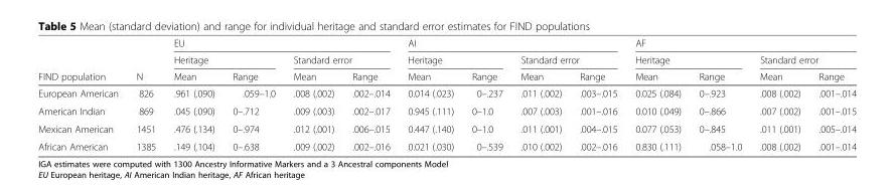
<table><thead><tr><td rowspan="3">FIND population</td><td rowspan="3">N</td><td colspan="4">EU</td><td colspan="4">AI</td><td colspan="4">AF</td></tr><tr><td colspan="2">Heritage</td><td colspan="2">Standard error</td><td colspan="2">Heritage</td><td colspan="2">Standard error</td><td colspan="2">Heritage</td><td colspan="2">Standard error</td></tr><tr><td>Mean</td><td>Range</td><td>Mean</td><td>Range</td><td>Mean</td><td>Range</td><td>Mean</td><td>Range</td><td>Mean</td><td>Range</td><td>Mean</td><td>Range</td></tr></thead><tbody><tr><td>European American</td><td>826</td><td>.961 (.090)</td><td>.059–1.0</td><td>.008 (.002)</td><td>.002–.014</td><td>0.014 (.023)</td><td>0–.237</td><td>.011 (.002)</td><td>.003–.015</td><td>0.025 (.084)</td><td>0–.923</td><td>.008 (.002)</td><td>.001–.014</td></tr><tr><td>American Indian</td><td>869</td><td>.045 (.090)</td><td>0–.712</td><td>.009 (.003)</td><td>.002–.017</td><td>0.945 (.111)</td><td>0–1.0</td><td>.007 (.003)</td><td>.001–.016</td><td>0.010 (.049)</td><td>0–.866</td><td>.007 (.002)</td><td>.001–.015</td></tr><tr><td>Mexican American</td><td>1451</td><td>.476 (.134)</td><td>0–.974</td><td>.012 (.001)</td><td>.006–.015</td><td>0.447 (.140)</td><td>0–1.0</td><td>.011 (.001)</td><td>.004–.015</td><td>0.077 (.053)</td><td>0–.845</td><td>.011 (.001)</td><td>.005–.014</td></tr><tr><td>African American</td><td>1385</td><td>.149 (.104)</td><td>0–.638</td><td>.009 (.002)</td><td>.002–.016</td><td>0.021 (.030)</td><td>0–.539</td><td>.010 (.002)</td><td>.002–.016</td><td>0.830 (.111)</td><td>.058–1.0</td><td>.008 (.002)</td><td>.001–.014</td></tr></tbody></table>